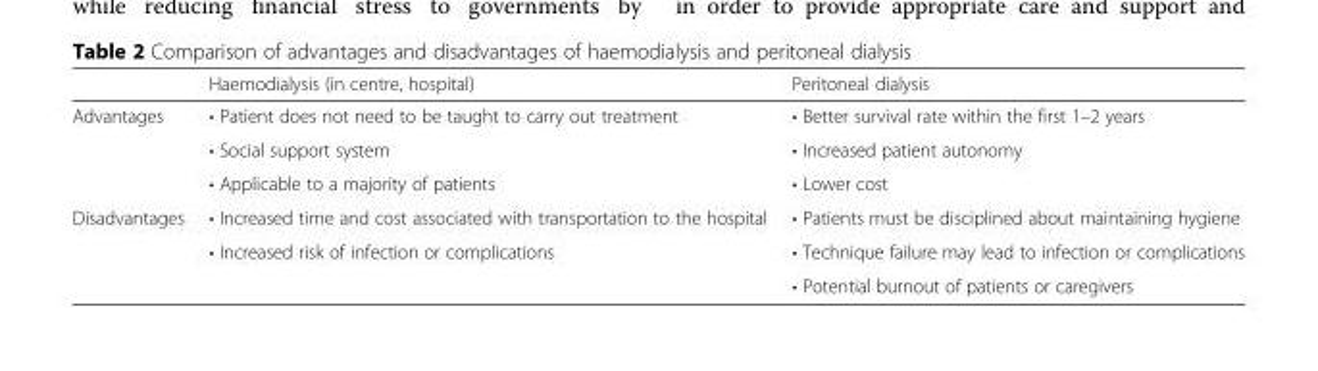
<table><thead><tr><td></td><td>Haemodialysis (in centre, hospital)</td><td>Peritoneal dialysis</td></tr></thead><tbody><tr><td rowspan="3">Advantages</td><td>• Patient does not need to be taught to carry out treatment</td><td>• Better survival rate within the first 1–2 years</td></tr><tr><td>• Social support system</td><td>• Increased patient autonomy</td></tr><tr><td>• Applicable to a majority of patients</td><td>• Lower cost</td></tr><tr><td rowspan="3">Disadvantages</td><td>• Increased time and cost associated with transportation to the hospital</td><td>• Patients must be disciplined about maintaining hygiene</td></tr><tr><td rowspan="2">• Increased risk of infection or complications</td><td>• Technique failure may lead to infection or complications</td></tr><tr><td>• Potential burnout of patients or caregivers</td></tr></tbody></table>